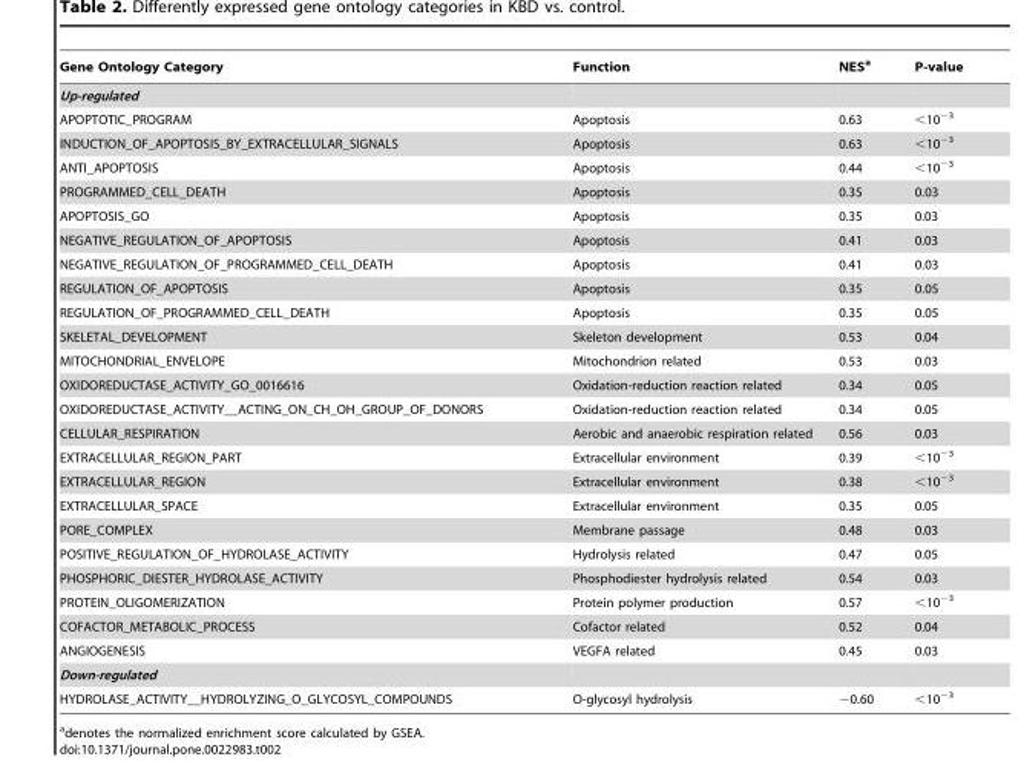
<table><thead><tr><td>Gene Ontology Category</td><td>Function</td><td>NES<sup>a</sup></td><td>P-value</td></tr></thead><tbody><tr><td colspan="4">Up-regulated</td></tr><tr><td>APOPTOTIC_PROGRAM</td><td>Apoptosis</td><td>0.63</td><td>&lt;10<sup>−3</sup></td></tr><tr><td>INDUCTION_OF_APOPTOSIS_BY_EXTRACELLULAR_SIGNALS</td><td>Apoptosis</td><td>0.63</td><td>&lt;10<sup>−3</sup></td></tr><tr><td>ANTI_APOPTOSIS</td><td>Apoptosis</td><td>0.44</td><td>&lt;10<sup>−3</sup></td></tr><tr><td>PROGRAMMED_CELL_DEATH</td><td>Apoptosis</td><td>0.35</td><td>0.03</td></tr><tr><td>APOPTOSIS_GO</td><td>Apoptosis</td><td>0.35</td><td>0.03</td></tr><tr><td>NEGATIVE_REGULATION_OF_APOPTOSIS</td><td>Apoptosis</td><td>0.41</td><td>0.03</td></tr><tr><td>NEGATIVE_REGULATION_OF_PROGRAMMED_CELL_DEATH</td><td>Apoptosis</td><td>0.41</td><td>0.03</td></tr><tr><td>REGULATION_OF_APOPTOSIS</td><td>Apoptosis</td><td>0.35</td><td>0.05</td></tr><tr><td>REGULATION_OF_PROGRAMMED_CELL_DEATH</td><td>Apoptosis</td><td>0.35</td><td>0.05</td></tr><tr><td>SKELETAL_DEVELOPMENT</td><td>Skeleton development</td><td>0.53</td><td>0.04</td></tr><tr><td>MITOCHONDRIAL_ENVELOPE</td><td>Mitochondrion related</td><td>0.53</td><td>0.03</td></tr><tr><td>OXIDOREDUCTASE_ACTIVITY_GO_0016616</td><td>Oxidation-reduction reaction related</td><td>0.34</td><td>0.05</td></tr><tr><td>OXIDOREDUCTASE_ACTIVITY__ACTING_ON_CH_OH_GROUP_OF_DONORS</td><td>Oxidation-reduction reaction related</td><td>0.34</td><td>0.05</td></tr><tr><td>CELLULAR_RESPIRATION</td><td>Aerobic and anaerobic respiration related</td><td>0.56</td><td>0.03</td></tr><tr><td>EXTRACELLULAR_REGION_PART</td><td>Extracellular environment</td><td>0.39</td><td>&lt;10<sup>−3</sup></td></tr><tr><td>EXTRACELLULAR_REGION</td><td>Extracellular environment</td><td>0.38</td><td>&lt;10<sup>−3</sup></td></tr><tr><td>EXTRACELLULAR_SPACE</td><td>Extracellular environment</td><td>0.35</td><td>0.05</td></tr><tr><td>PORE_COMPLEX</td><td>Membrane passage</td><td>0.48</td><td>0.03</td></tr><tr><td>POSITIVE_REGULATION_OF_HYDROLASE_ACTIVITY</td><td>Hydrolysis related</td><td>0.47</td><td>0.05</td></tr><tr><td>PHOSPHORIC_DIESTER_HYDROLASE_ACTIVITY</td><td>Phosphodiester hydrolysis related</td><td>0.54</td><td>0.03</td></tr><tr><td>PROTEIN_OLIGOMERIZATION</td><td>Protein polymer production</td><td>0.57</td><td>&lt;10<sup>−3</sup></td></tr><tr><td>COFACTOR_METABOLIC_PROCESS</td><td>Cofactor related</td><td>0.52</td><td>0.04</td></tr><tr><td>ANGIOGENESIS</td><td>VEGFA related</td><td>0.45</td><td>0.03</td></tr><tr><td colspan="4">Down-regulated</td></tr><tr><td>HYDROLASE_ACTIVITY__HYDROLYZING_O_GLYCOSYL_COMPOUNDS</td><td>O-glycosyl hydrolysis</td><td>−0.60</td><td>&lt;10<sup>−3</sup></td></tr></tbody></table>